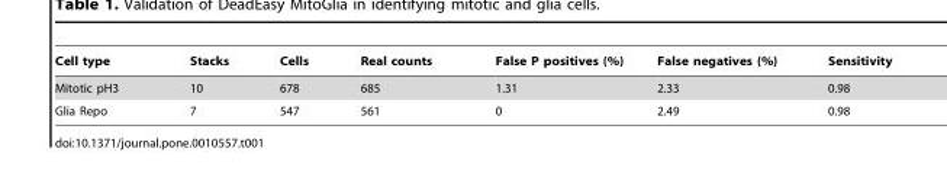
<table><thead><tr><td>Cell type</td><td>Stacks</td><td>Cells</td><td>Real counts</td><td>False P positives (%)</td><td>False negatives (%)</td><td>Sensitivity</td></tr></thead><tbody><tr><td>Mitotic pH3</td><td>10</td><td>678</td><td>685</td><td>1.31</td><td>2.33</td><td>0.98</td></tr><tr><td>Glia Repo</td><td>7</td><td>547</td><td>561</td><td>0</td><td>2.49</td><td>0.98</td></tr></tbody></table>